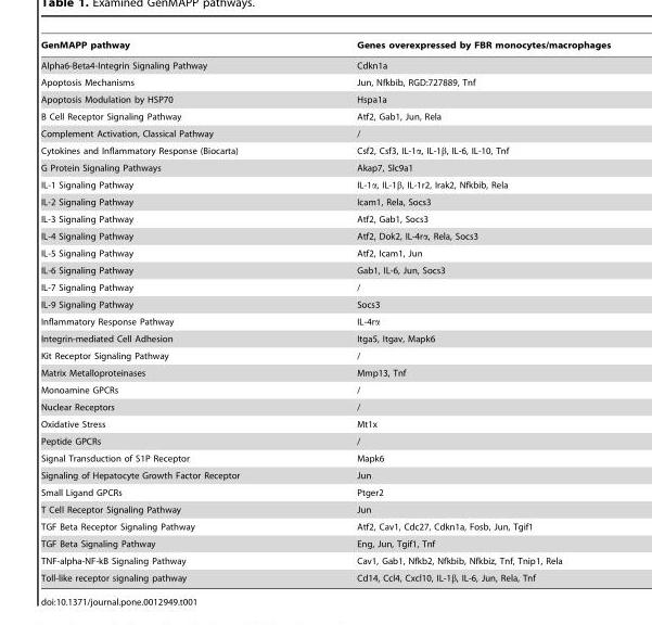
<table><thead><tr><td>GenMAPP pathway</td><td>Genes overexpressed by FBR monocytes/macrophages</td></tr></thead><tbody><tr><td>Alpha6-Beta4-Integrin Signaling Pathway</td><td>Cdkn1a</td></tr><tr><td>Apoptosis Mechanisms</td><td>Jun, Nfkbib, RGD:727889, Tnf</td></tr><tr><td>Apoptosis Modulation by HSP70</td><td>Hspa1a</td></tr><tr><td>B Cell Receptor Signaling Pathway</td><td>Atf2, Gab1, Jun, Rela</td></tr><tr><td>Complement Activation, Classical Pathway</td><td>/</td></tr><tr><td>Cytokines and Inflammatory Response (Biocarta)</td><td>Csf2, Csf3, IL-1α, IL-1β, IL-6, IL-10, Tnf</td></tr><tr><td>G Protein Signaling Pathways</td><td>Akap7, Slc9a1</td></tr><tr><td>IL-1 Signaling Pathway</td><td>IL-1α, IL-1β, IL-1r2, Irak2, Nfkbib, Rela</td></tr><tr><td>IL-2 Signaling Pathway</td><td>Icam1, Rela, Socs3</td></tr><tr><td>IL-3 Signaling Pathway</td><td>Atf2, Gab1, Socs3</td></tr><tr><td>IL-4 Signaling Pathway</td><td>Atf2, Dok2, IL-4rα, Rela, Socs3</td></tr><tr><td>IL-5 Signaling Pathway</td><td>Atf2, Icam1, Jun</td></tr><tr><td>IL-6 Signaling Pathway</td><td>Gab1, IL-6, Jun, Socs3</td></tr><tr><td>IL-7 Signaling Pathway</td><td>/</td></tr><tr><td>IL-9 Signaling Pathway</td><td>Socs3</td></tr><tr><td>Inflammatory Response Pathway</td><td>IL-4rα</td></tr><tr><td>Integrin-mediated Cell Adhesion</td><td>Itga5, Itgav, Mapk6</td></tr><tr><td>Kit Receptor Signaling Pathway</td><td>/</td></tr><tr><td>Matrix Metalloproteinases</td><td>Mmp13, Tnf</td></tr><tr><td>Monoamine GPCRs</td><td>/</td></tr><tr><td>Nuclear Receptors</td><td>/</td></tr><tr><td>Oxidative Stress</td><td>Mt1x</td></tr><tr><td>Peptide GPCRs</td><td>/</td></tr><tr><td>Signal Transduction of S1P Receptor</td><td>Mapk6</td></tr><tr><td>Signaling of Hepatocyte Growth Factor Receptor</td><td>Jun</td></tr><tr><td>Small Ligand GPCRs</td><td>Ptger2</td></tr><tr><td>T Cell Receptor Signaling Pathway</td><td>Jun</td></tr><tr><td>TGF Beta Receptor Signaling Pathway</td><td>Atf2, Cav1, Cdc27, Cdkn1a, Fosb, Jun, Tgif1</td></tr><tr><td>TGF Beta Signaling Pathway</td><td>Eng, Jun, Tgif1, Tnf</td></tr><tr><td>TNF-alpha-NF-kB Signaling Pathway</td><td>Cav1, Gab1, Nfkb2, Nfkbib, Nfkbiz, Tnf, Tnip1, Rela</td></tr><tr><td>Toll-like receptor signaling pathway</td><td>Cd14, Ccl4, Cxcl10, IL-1β, IL-6, Jun, Rela, Tnf</td></tr></tbody></table>